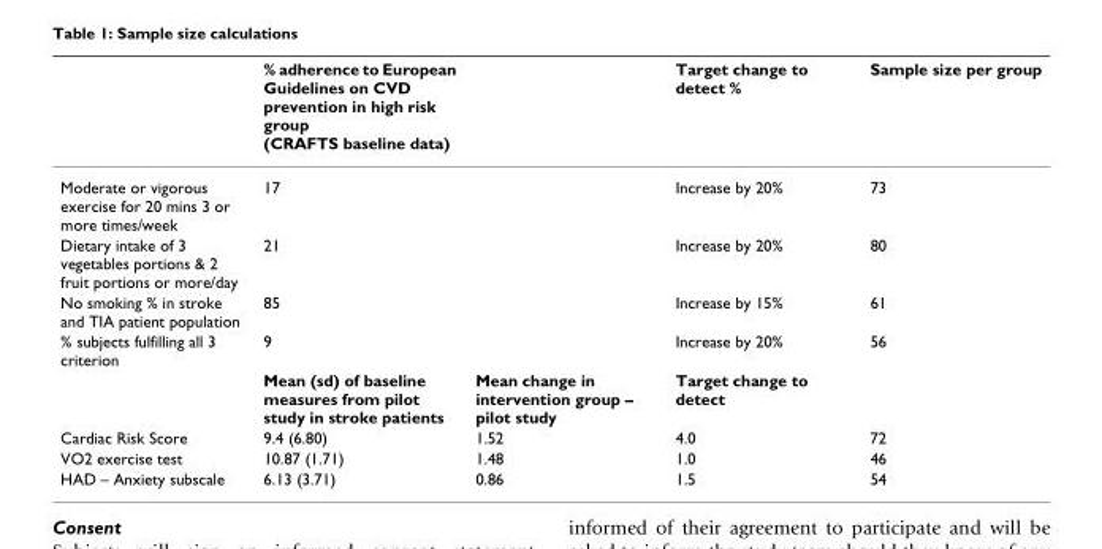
<table><thead><tr><td></td><td>% adherence to European Guidelines on CVD prevention in high risk group (CRAFTS baseline data)</td><td></td><td>Target change to detect %</td><td>Sample size per group</td></tr></thead><tbody><tr><td>Moderate or vigorous exercise for 20 mins 3 or more times/week</td><td>17</td><td></td><td>Increase by 20%</td><td>73</td></tr><tr><td>Dietary intake of 3 vegetables portions &amp; 2 fruit portions or more/day</td><td>21</td><td></td><td>Increase by 20%</td><td>80</td></tr><tr><td>No smoking % in stroke and TIA patient population</td><td>85</td><td></td><td>Increase by 15%</td><td>61</td></tr><tr><td rowspan="2">% subjects fulfilling all 3 criterion</td><td>9</td><td></td><td>Increase by 20%</td><td>56</td></tr><tr><td>Mean (sd) of baseline measures from pilot study in stroke patients</td><td>Mean change in intervention group – pilot study</td><td>Target change to detect</td><td></td></tr><tr><td>Cardiac Risk Score</td><td>9.4 (6.80)</td><td>1.52</td><td>4.0</td><td>72</td></tr><tr><td>VO2 exercise test</td><td>10.87 (1.71)</td><td>1.48</td><td>1.0</td><td>46</td></tr><tr><td>HAD – Anxiety subscale</td><td>6.13 (3.71)</td><td>0.86</td><td>1.5</td><td>54</td></tr></tbody></table>